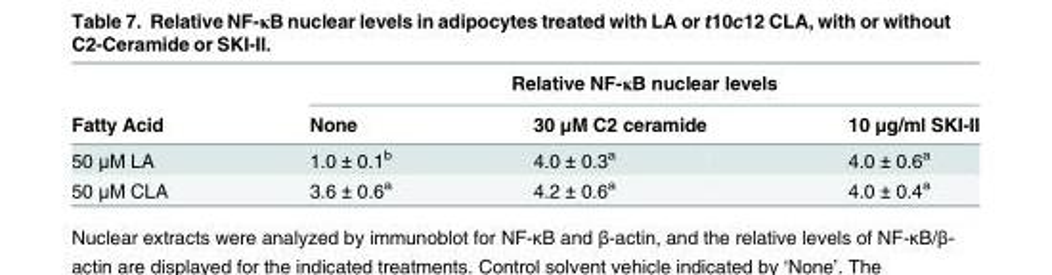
<table><thead><tr><td rowspan="2">Fatty Acid</td><td colspan="3">Relative NF-κB nuclear levels</td></tr><tr><td>None</td><td>30 μM C2 ceramide</td><td>10 μg/ml SKI-II</td></tr></thead><tbody><tr><td>50 μM LA</td><td>1.0 ± 0.1<sup>b</sup></td><td>4.0 ± 0.3<sup>a</sup></td><td>4.0 ± 0.6<sup>a</sup></td></tr><tr><td>50 μM CLA</td><td>3.6 ± 0.6<sup>a</sup></td><td>4.2 ± 0.6<sup>a</sup></td><td>4.0 ± 0.4<sup>a</sup></td></tr></tbody></table>